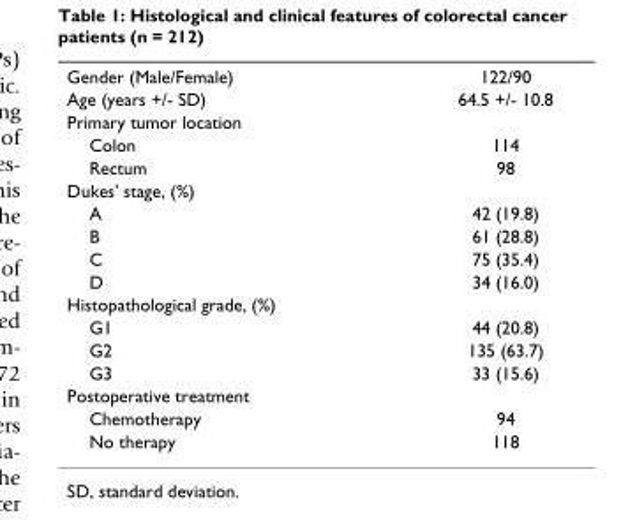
<table><tbody><tr><td>Gender (Male/Female)</td><td>122/90</td></tr><tr><td>Age (years +/- SD)</td><td>64.5 +/- 10.8</td></tr><tr><td colspan="2">Primary tumor location</td></tr><tr><td>Colon</td><td>114</td></tr><tr><td>Rectum</td><td>98</td></tr><tr><td colspan="2">Dukes&#x27; stage, (%)</td></tr><tr><td>A</td><td>42 (19.8)</td></tr><tr><td>B</td><td>61 (28.8)</td></tr><tr><td>C</td><td>75 (35.4)</td></tr><tr><td>D</td><td>34 (16.0)</td></tr><tr><td colspan="2">Histopathological grade, (%)</td></tr><tr><td>G1</td><td>44 (20.8)</td></tr><tr><td>G2</td><td>135 (63.7)</td></tr><tr><td>G3</td><td>33 (15.6)</td></tr><tr><td colspan="2">Postoperative treatment</td></tr><tr><td>Chemotherapy</td><td>94</td></tr><tr><td>No therapy</td><td>118</td></tr></tbody></table>